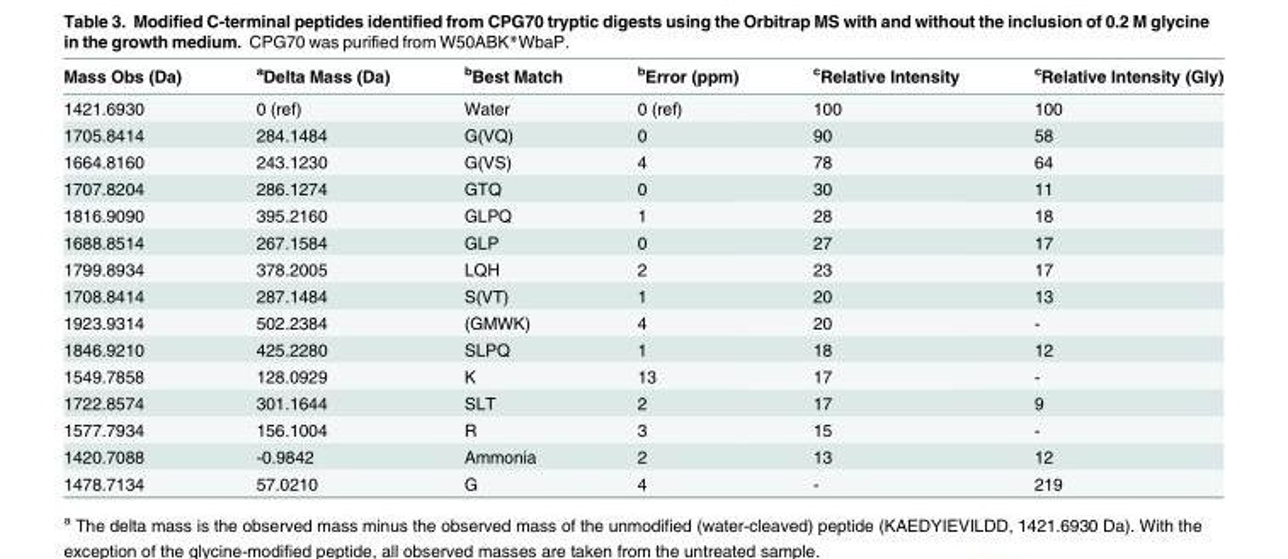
<table><thead><tr><td>Mass Obs (Da)</td><td><sup>a</sup>Delta Mass (Da)</td><td><sup>b</sup>Best Match</td><td><sup>b</sup>Error (ppm)</td><td><sup>c</sup>Relative Intensity</td><td><sup>c</sup>Relative Intensity (Gly)</td></tr></thead><tbody><tr><td>1421.6930</td><td>0 (ref)</td><td>Water</td><td>0 (ref)</td><td>100</td><td>100</td></tr><tr><td>1705.8414</td><td>284.1484</td><td>G(VQ)</td><td>0</td><td>90</td><td>58</td></tr><tr><td>1664.8160</td><td>243.1230</td><td>G(VS)</td><td>4</td><td>78</td><td>64</td></tr><tr><td>1707.8204</td><td>286.1274</td><td>GTQ</td><td>0</td><td>30</td><td>11</td></tr><tr><td>1816.9090</td><td>395.2160</td><td>GLPQ</td><td>1</td><td>28</td><td>18</td></tr><tr><td>1688.8514</td><td>267.1584</td><td>GLP</td><td>0</td><td>27</td><td>17</td></tr><tr><td>1799.8934</td><td>378.2005</td><td>LQH</td><td>2</td><td>23</td><td>17</td></tr><tr><td>1708.8414</td><td>287.1484</td><td>S(VT)</td><td>1</td><td>20</td><td>13</td></tr><tr><td>1923.9314</td><td>502.2384</td><td>(GMWK)</td><td>4</td><td>20</td><td>-</td></tr><tr><td>1846.9210</td><td>425.2280</td><td>SLPQ</td><td>1</td><td>18</td><td>12</td></tr><tr><td>1549.7858</td><td>128.0929</td><td>K</td><td>13</td><td>17</td><td>-</td></tr><tr><td>1722.8574</td><td>301.1644</td><td>SLT</td><td>2</td><td>17</td><td>9</td></tr><tr><td>1577.7934</td><td>156.1004</td><td>R</td><td>3</td><td>15</td><td>-</td></tr><tr><td>1420.7088</td><td>-0.9842</td><td>Ammonia</td><td>2</td><td>13</td><td>12</td></tr><tr><td>1478.7134</td><td>57.0210</td><td>G</td><td>4</td><td>-</td><td>219</td></tr></tbody></table>